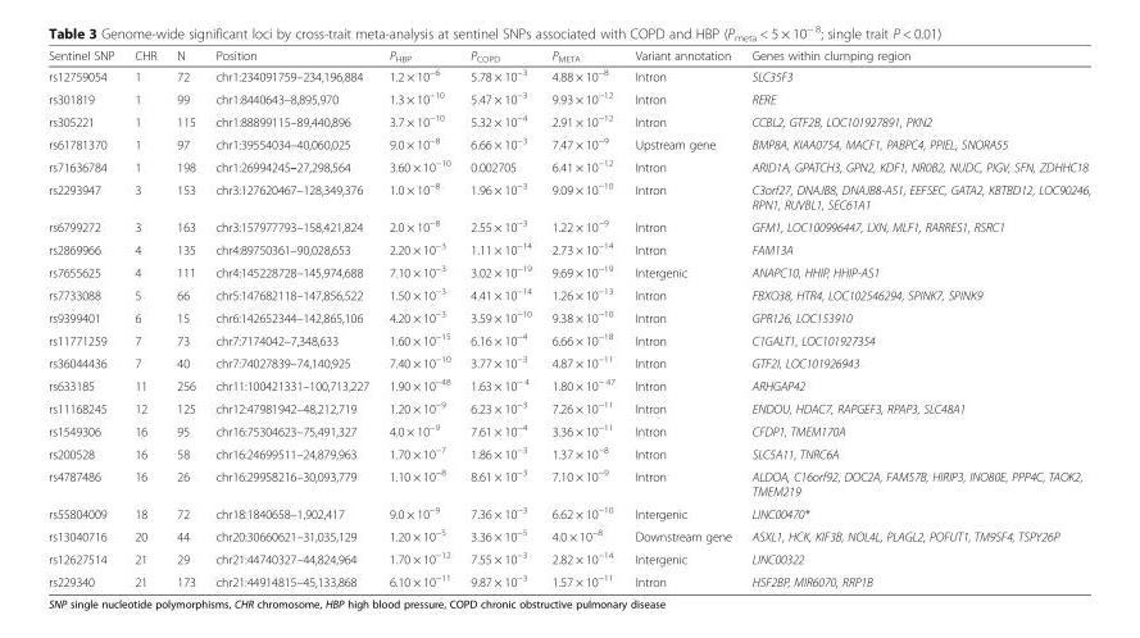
<table><thead><tr><td>Sentinel SNP</td><td>CHR</td><td>N</td><td>Position</td><td>P<sub>HBP</sub></td><td>P<sub>COPD</sub></td><td>P<sub>META</sub></td><td>Variant annotation</td><td>Genes within clumping region</td></tr></thead><tbody><tr><td>rs12759054</td><td>1</td><td>72</td><td>chr1:234091759–234,196,884</td><td>1.2 × 10<sup>−6</sup></td><td>5.78 × 10<sup>−3</sup></td><td>4.88 × 10<sup>−8</sup></td><td>Intron</td><td>SLC35F3</td></tr><tr><td>rs301819</td><td>1</td><td>99</td><td>chr1:8440643–8,895,970</td><td>1.3 × 10<sup>−10</sup></td><td>5.47 × 10<sup>−3</sup></td><td>9.93 × 10<sup>−12</sup></td><td>Intron</td><td>RERE</td></tr><tr><td>rs305221</td><td>1</td><td>115</td><td>chr1:88899115–89,440,896</td><td>3.7 × 10<sup>−10</sup></td><td>5.32 × 10<sup>−4</sup></td><td>2.91 × 10<sup>−12</sup></td><td>Intron</td><td>CCBL2, GTF2B, LOC101927891, PKN2</td></tr><tr><td>rs61781370</td><td>1</td><td>97</td><td>chr1:39554034–40,060,025</td><td>9.0 × 10<sup>−8</sup></td><td>6.66 × 10<sup>−3</sup></td><td>7.47 × 10<sup>−9</sup></td><td>Upstream gene</td><td>BMP8A, KIAA0754, MACF1, PABPC4, PPIEL, SNORA55</td></tr><tr><td>rs71636784</td><td>1</td><td>198</td><td>chr1:26994245–27,298,564</td><td>3.60 × 10<sup>−10</sup></td><td>0.002705</td><td>6.41 × 10<sup>−12</sup></td><td>Intron</td><td>ARID1A, GPATCH3, GPN2, KDF1, NR0B2, NUDC, PIGV, SFN, ZDHHC18</td></tr><tr><td>rs2293947</td><td>3</td><td>153</td><td>chr3:127620467–128,349,376</td><td>1.0 × 10<sup>−8</sup></td><td>1.96 × 10<sup>−3</sup></td><td>9.09 × 10<sup>−10</sup></td><td>Intron</td><td>C3orf27, DNAJB8, DNAJB8-AS1, EEFSEC, GATA2, KBTBD12, LOC90246, RPN1, RUVBL1, SEC61A1</td></tr><tr><td>rs6799272</td><td>3</td><td>163</td><td>chr3:157977793–158,421,824</td><td>2.0 × 10<sup>−8</sup></td><td>2.55 × 10<sup>−3</sup></td><td>1.22 × 10<sup>−9</sup></td><td>Intron</td><td>GFM1, LOC100996447, LXN, MLF1, RARRES1, RSRC1</td></tr><tr><td>rs2869966</td><td>4</td><td>135</td><td>chr4:89750361–90,028,653</td><td>2.20 × 10<sup>−3</sup></td><td>1.11 × 10<sup>−14</sup></td><td>2.73 × 10<sup>−14</sup></td><td>Intron</td><td>FAM13A</td></tr><tr><td>rs7655625</td><td>4</td><td>111</td><td>chr4:145228728–145,974,688</td><td>7.10 × 10<sup>−3</sup></td><td>3.02 × 10<sup>−19</sup></td><td>9.69 × 10<sup>−19</sup></td><td>Intergenic</td><td>ANAPC10, HHIP, HHIP-AS1</td></tr><tr><td>rs7733088</td><td>5</td><td>66</td><td>chr5:147682118–147,856,522</td><td>1.50 × 10<sup>−3</sup></td><td>4.41 × 10<sup>−14</sup></td><td>1.26 × 10<sup>−13</sup></td><td>Intron</td><td>FBXO38, HTR4, LOC102546294, SPINK7, SPINK9</td></tr><tr><td>rs9399401</td><td>6</td><td>15</td><td>chr6:142652344–142,865,106</td><td>4.20 × 10<sup>−3</sup></td><td>3.59 × 10<sup>−10</sup></td><td>9.38 × 10<sup>−10</sup></td><td>Intron</td><td>GPR126, LOC153910</td></tr><tr><td>rs11771259</td><td>7</td><td>73</td><td>chr7:7174042–7,348,633</td><td>1.60 × 10<sup>−15</sup></td><td>6.16 × 10<sup>−4</sup></td><td>6.66 × 10<sup>−18</sup></td><td>Intron</td><td>C1GALT1, LOC101927354</td></tr><tr><td>rs36044436</td><td>7</td><td>40</td><td>chr7:74027839–74,140,925</td><td>7.40 × 10<sup>−10</sup></td><td>3.77 × 10<sup>−3</sup></td><td>4.87 × 10<sup>−11</sup></td><td>Intron</td><td>GTF2I, LOC101926943</td></tr><tr><td>rs633185</td><td>11</td><td>256</td><td>chr11:100421331–100,713,227</td><td>1.90 × 10<sup>−48</sup></td><td>1.63 × 10<sup>− 4</sup></td><td>1.80 × 10<sup>− 47</sup></td><td>Intron</td><td>ARHGAP42</td></tr><tr><td>rs11168245</td><td>12</td><td>125</td><td>chr12:47981942–48,212,719</td><td>1.20 × 10<sup>−9</sup></td><td>6.23 × 10<sup>−3</sup></td><td>7.26 × 10<sup>−11</sup></td><td>Intron</td><td>ENDOU, HDAC7, RAPGEF3, RPAP3, SLC48A1</td></tr><tr><td>rs1549306</td><td>16</td><td>95</td><td>chr16:75304623–75,491,327</td><td>4.0 × 10<sup>−9</sup></td><td>7.61 × 10<sup>−4</sup></td><td>3.36 × 10<sup>−11</sup></td><td>Intron</td><td>CFDP1, TMEM170A</td></tr><tr><td>rs200528</td><td>16</td><td>58</td><td>chr16:24699511–24,879,963</td><td>1.70 × 10<sup>−7</sup></td><td>1.86 × 10<sup>−3</sup></td><td>1.37 × 10<sup>−8</sup></td><td>Intron</td><td>SLC5A11, TNRC6A</td></tr><tr><td>rs4787486</td><td>16</td><td>26</td><td>chr16:29958216–30,093,779</td><td>1.10 × 10<sup>−8</sup></td><td>8.61 × 10<sup>−3</sup></td><td>7.10 × 10<sup>−9</sup></td><td>Intron</td><td>ALDOA, C16orf92, DOC2A, FAM57B, HIRIP3, INO80E, PPP4C, TAOK2, TMEM219</td></tr><tr><td>rs55804009</td><td>18</td><td>72</td><td>chr18:1840658–1,902,417</td><td>9.0 × 10<sup>−9</sup></td><td>7.36 × 10<sup>−3</sup></td><td>6.62 × 10<sup>−10</sup></td><td>Intergenic</td><td>LINC00470*</td></tr><tr><td>rs13040716</td><td>20</td><td>44</td><td>chr20:30660621–31,035,129</td><td>1.20 × 10<sup>−5</sup></td><td>3.36 × 10<sup>−5</sup></td><td>4.0 × 10<sup>−8</sup></td><td>Downstream gene</td><td>ASXL1, HCK, KIF3B, NOL4L, PLAGL2, POFUT1, TM9SF4, TSPY26P</td></tr><tr><td>rs12627514</td><td>21</td><td>29</td><td>chr21:44740327–44,824,964</td><td>1.70 × 10<sup>−12</sup></td><td>7.55 × 10<sup>−3</sup></td><td>2.82 × 10<sup>−14</sup></td><td>Intergenic</td><td>LINC00322</td></tr><tr><td>rs229340</td><td>21</td><td>173</td><td>chr21:44914815–45,133,868</td><td>6.10 × 10<sup>−11</sup></td><td>9.87 × 10<sup>−3</sup></td><td>1.57 × 10<sup>−11</sup></td><td>Intron</td><td>HSF2BP, MIR6070, RRP1B</td></tr></tbody></table>